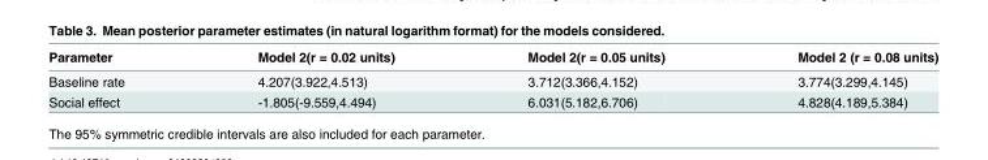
<table><thead><tr><td>Parameter</td><td>Model 2(r = 0.02 units)</td><td>Model 2(r = 0.05 units)</td><td>Model 2 (r = 0.08 units)</td></tr></thead><tbody><tr><td>Baseline rate</td><td>4.207(3.922,4.513)</td><td>3.712(3.366,4.152)</td><td>3.774(3.299,4.145)</td></tr><tr><td>Social effect</td><td>-1.805(-9.559,4.494)</td><td>6.031(5.182,6.706)</td><td>4.828(4.189,5.384)</td></tr></tbody></table>